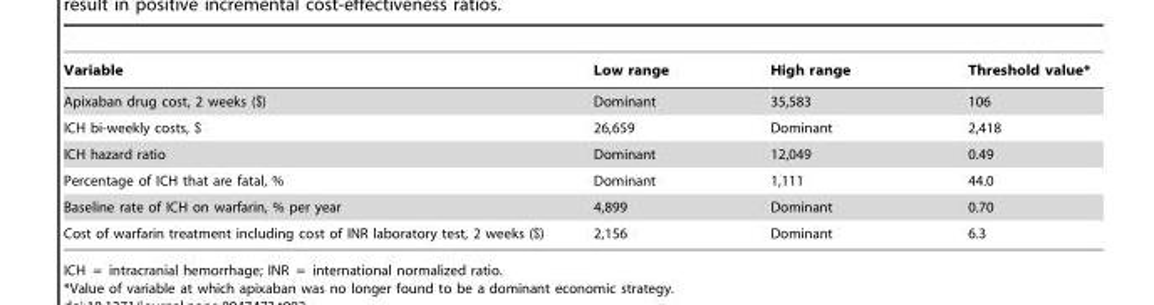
<table><thead><tr><td>Variable</td><td>Low range</td><td>High range</td><td>Threshold value*</td></tr></thead><tbody><tr><td>Apixaban drug cost, 2 weeks ($)</td><td>Dominant</td><td>35,583</td><td>106</td></tr><tr><td>ICH bi-weekly costs, $</td><td>26,659</td><td>Dominant</td><td>2,418</td></tr><tr><td>ICH hazard ratio</td><td>Dominant</td><td>12,049</td><td>0.49</td></tr><tr><td>Percentage of ICH that are fatal, %</td><td>Dominant</td><td>1,111</td><td>44.0</td></tr><tr><td>Baseline rate of ICH on warfarin, % per year</td><td>4,899</td><td>Dominant</td><td>0.70</td></tr><tr><td>Cost of warfarin treatment including cost of INR laboratory test, 2 weeks ($)</td><td>2,156</td><td>Dominant</td><td>6.3</td></tr></tbody></table>